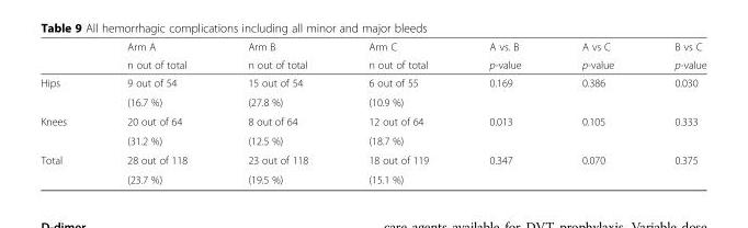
<table><thead><tr><td rowspan="2"></td><td rowspan="2">Arm A n out of total</td><td rowspan="2">Arm B n out of total</td><td rowspan="2">Arm C n out of total</td><td rowspan="2">A vs. B p-value</td><td rowspan="2">A vs C p-value</td><td rowspan="2">B vs C p-value</td></tr><tr></tr></thead><tbody><tr><td rowspan="2">Hips</td><td>9 out of 54</td><td>15 out of 54</td><td>6 out of 55</td><td rowspan="2">0.169</td><td rowspan="2">0.386</td><td rowspan="2">0.030</td></tr><tr><td>(16.7 %)</td><td>(27.8 %)</td><td>(10.9 %)</td></tr><tr><td rowspan="2">Knees</td><td>20 out of 64</td><td>8 out of 64</td><td>12 out of 64</td><td rowspan="2">0.013</td><td rowspan="2">0.105</td><td rowspan="2">0.333</td></tr><tr><td>(31.2 %)</td><td>(12.5 %)</td><td>(18.7 %)</td></tr><tr><td rowspan="2">Total</td><td>28 out of 118</td><td>23 out of 118</td><td>18 out of 119</td><td rowspan="2">0.347</td><td rowspan="2">0.070</td><td rowspan="2">0.375</td></tr><tr><td>(23.7 %)</td><td>(19.5 %)</td><td>(15.1 %)</td></tr></tbody></table>